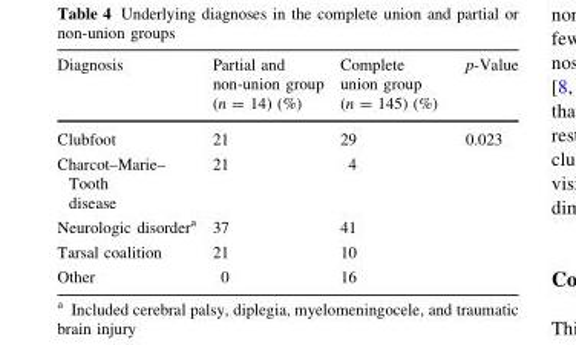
<table><thead><tr><td>Diagnosis</td><td>Partial and non-union group (n = 14) (%)</td><td>Complete union group (n = 145) (%)</td><td>p-Value</td></tr></thead><tbody><tr><td>Clubfoot</td><td>21</td><td>29</td><td rowspan="5">0.023</td></tr><tr><td>Charcot–Marie– Tooth disease</td><td>21</td><td>4</td></tr><tr><td>Neurologic disorder<sup>a</sup></td><td>37</td><td>41</td></tr><tr><td>Tarsal coalition</td><td>21</td><td>10</td></tr><tr><td>Other</td><td>0</td><td>16</td></tr></tbody></table>